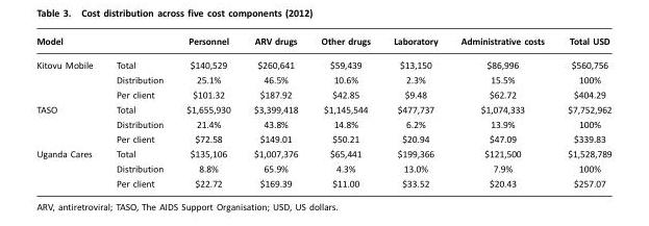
<table><thead><tr><td>Model</td><td></td><td>Personnel</td><td>ARV drugs</td><td>Other drugs</td><td>Laboratory</td><td>Administrative costs</td><td>Total USD</td></tr></thead><tbody><tr><td rowspan="3">Kitovu Mobile</td><td>Total</td><td>$140,529</td><td>$260,641</td><td>$59,439</td><td>$13,150</td><td>$86,996</td><td>$560,756</td></tr><tr><td>Distribution</td><td>25.1%</td><td>46.5%</td><td>10.6%</td><td>2.3%</td><td>15.5%</td><td>100%</td></tr><tr><td>Per client</td><td>$101.32</td><td>$187.92</td><td>$42.85</td><td>$9.48</td><td>$62.72</td><td>$404.29</td></tr><tr><td rowspan="3">TASO</td><td>Total</td><td>$1,655,930</td><td>$3,399,418</td><td>$1,145,544</td><td>$477,737</td><td>$1,074,333</td><td>$7,752,962</td></tr><tr><td>Distribution</td><td>21.4%</td><td>43.8%</td><td>14.8%</td><td>6.2%</td><td>13.9%</td><td>100%</td></tr><tr><td>Per client</td><td>$72.58</td><td>$149.01</td><td>$50.21</td><td>$20.94</td><td>$47.09</td><td>$339.83</td></tr><tr><td rowspan="3">Uganda Cares</td><td>Total</td><td>$135,106</td><td>$1,007,376</td><td>$65,441</td><td>$199,366</td><td>$121,500</td><td>$1,528,789</td></tr><tr><td>Distribution</td><td>8.8%</td><td>65.9%</td><td>4.3%</td><td>13.0%</td><td>7.9%</td><td>100%</td></tr><tr><td>Per client</td><td>$22.72</td><td>$169.39</td><td>$11.00</td><td>$33.52</td><td>$20.43</td><td>$257.07</td></tr></tbody></table>